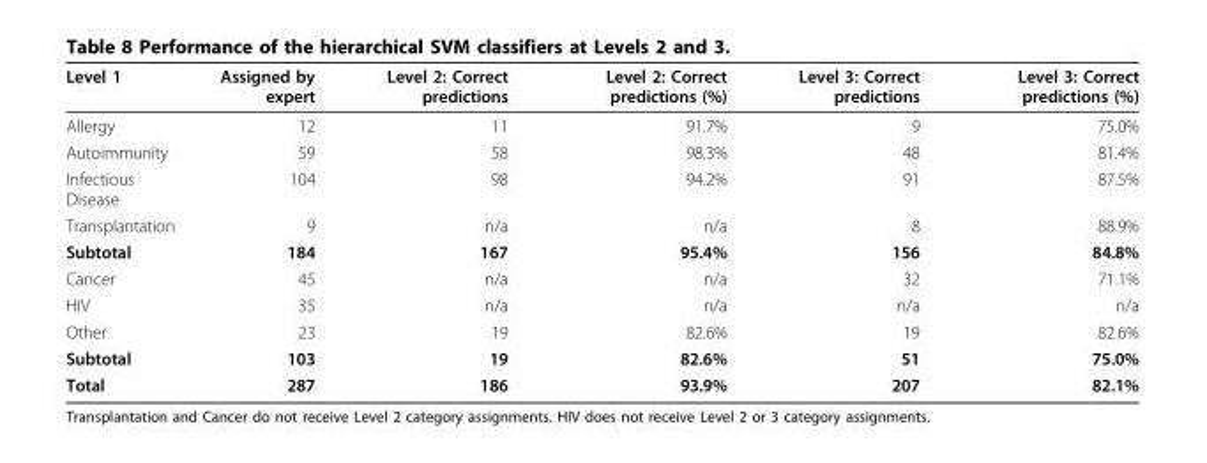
<table><thead><tr><td>Level 1</td><td>Assigned by expert</td><td>Level 2: Correct predictions</td><td>Level 2: Correct predictions (%)</td><td>Level 3: Correct predictions</td><td>Level 3: Correct predictions (%)</td></tr></thead><tbody><tr><td>Allergy</td><td>12</td><td>11</td><td>91.7%</td><td>9</td><td>75.0%</td></tr><tr><td>Autoimmunity</td><td>59</td><td>58</td><td>98.3%</td><td>48</td><td>81.4%</td></tr><tr><td>Infectious Disease</td><td>104</td><td>98</td><td>94.2%</td><td>91</td><td>87.5%</td></tr><tr><td>Transplantation</td><td>9</td><td>n/a</td><td>n/a</td><td>8</td><td>88.9%</td></tr><tr><td>Subtotal</td><td>184</td><td>167</td><td>95.4%</td><td>156</td><td>84.8%</td></tr><tr><td>Cancer</td><td>45</td><td>n/a</td><td>n/a</td><td>32</td><td>71.1%</td></tr><tr><td>HIV</td><td>35</td><td>n/a</td><td>n/a</td><td>n/a</td><td>n/a</td></tr><tr><td>Other</td><td>23</td><td>19</td><td>82.6%</td><td>19</td><td>82.6%</td></tr><tr><td>Subtotal</td><td>103</td><td>19</td><td>82.6%</td><td>51</td><td>75.0%</td></tr><tr><td>Total</td><td>287</td><td>186</td><td>93.9%</td><td>207</td><td>82.1%</td></tr></tbody></table>